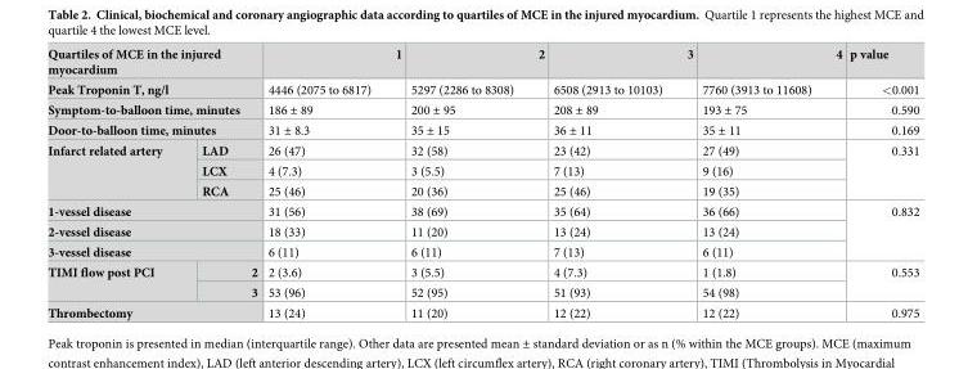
<table><thead><tr><td colspan="2">Quartiles of MCE in the injured myocardium</td><td>1</td><td>2</td><td>3</td><td>4</td><td>p value</td></tr></thead><tbody><tr><td colspan="2">Peak Troponin T, ng/l</td><td>4446 (2075 to 6817)</td><td>5297 (2286 to 8308)</td><td>6508 (2913 to 10103)</td><td>7760 (3913 to 11608)</td><td>&lt;0.001</td></tr><tr><td colspan="2">Symptom-to-balloon time, minutes</td><td>186 ± 89</td><td>200 ± 95</td><td>208 ± 89</td><td>193 ± 75</td><td>0.590</td></tr><tr><td colspan="2">Door-to-balloon time, minutes</td><td>31 ± 8.3</td><td>35 ± 15</td><td>36 ± 11</td><td>35 ± 11</td><td>0.169</td></tr><tr><td rowspan="3">Infarct related artery</td><td>LAD</td><td>26 (47)</td><td>32 (58)</td><td>23 (42)</td><td>27 (49)</td><td rowspan="3">0.331</td></tr><tr><td>LCX</td><td>4 (7.3)</td><td>3 (5.5)</td><td>7 (13)</td><td>9 (16)</td></tr><tr><td>RCA</td><td>25 (46)</td><td>20 (36)</td><td>25 (46)</td><td>19 (35)</td></tr><tr><td colspan="2">1-vessel disease</td><td>31 (56)</td><td>38 (69)</td><td>35 (64)</td><td>36 (66)</td><td rowspan="3">0.832</td></tr><tr><td colspan="2">2-vessel disease</td><td>18 (33)</td><td>11 (20)</td><td>13 (24)</td><td>13 (24)</td></tr><tr><td colspan="2">3-vessel disease</td><td>6 (11)</td><td>6 (11)</td><td>7 (13)</td><td>6 (11)</td></tr><tr><td rowspan="2">TIMI flow post PCI</td><td>2</td><td>2 (3.6)</td><td>3 (5.5)</td><td>4 (7.3)</td><td>1 (1.8)</td><td rowspan="2">0.553</td></tr><tr><td>3</td><td>53 (96)</td><td>52 (95)</td><td>51 (93)</td><td>54 (98)</td></tr><tr><td colspan="2">Thrombectomy</td><td>13 (24)</td><td>11 (20)</td><td>12 (22)</td><td>12 (22)</td><td>0.975</td></tr></tbody></table>